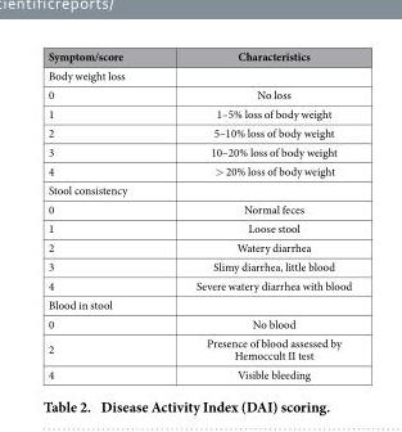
<table><thead><tr><td>Symptom/score</td><td>Characteristics</td></tr></thead><tbody><tr><td colspan="2">Body weight loss</td></tr><tr><td>0</td><td>No loss</td></tr><tr><td>1</td><td>1–5% loss of body weight</td></tr><tr><td>2</td><td>5–10% loss of body weight</td></tr><tr><td>3</td><td>10–20% loss of body weight</td></tr><tr><td>4</td><td>&gt; 20% loss of body weight</td></tr><tr><td colspan="2">Stool consistency</td></tr><tr><td>0</td><td>Normal feces</td></tr><tr><td>1</td><td>Loose stool</td></tr><tr><td>2</td><td>Watery diarrhea</td></tr><tr><td>3</td><td>Slimy diarrhea, little blood</td></tr><tr><td>4</td><td>Severe watery diarrhea with blood</td></tr><tr><td colspan="2">Blood in stool</td></tr><tr><td>0</td><td>No blood</td></tr><tr><td>2</td><td>Presence of blood assessed by Hemoccult II test</td></tr><tr><td>4</td><td>Visible bleeding</td></tr></tbody></table>